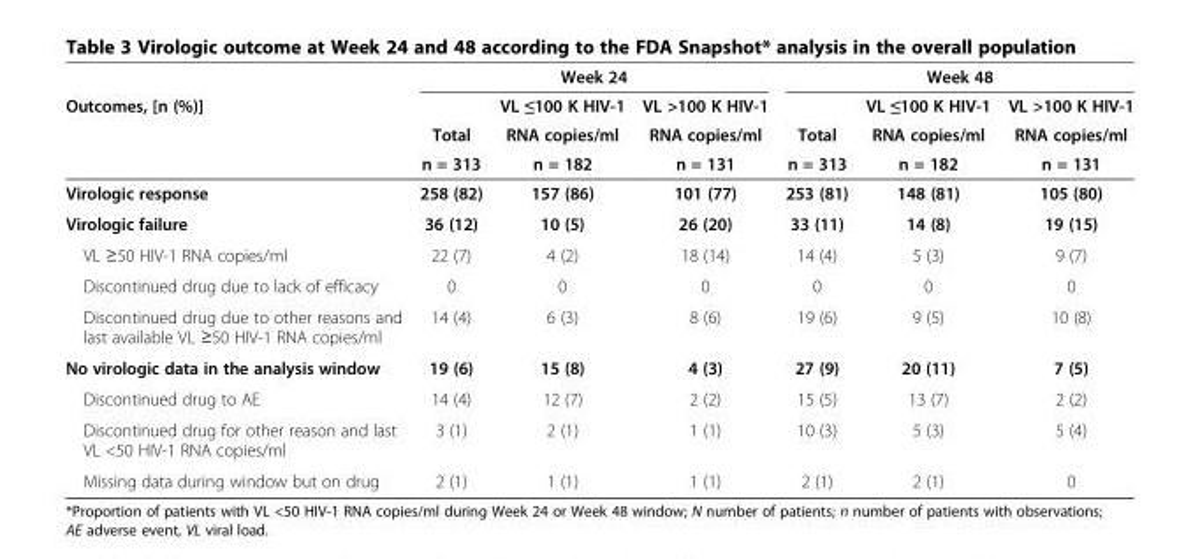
<table><thead><tr><td rowspan="4">Outcomes, [n (%)]</td><td colspan="3">Week 24</td><td colspan="3">Week 48</td></tr><tr><td rowspan="3">Total n = 313</td><td rowspan="3">VL ≤100 K HIV-1 RNA copies/ml n = 182</td><td rowspan="3">VL &gt;100 K HIV-1 RNA copies/ml n = 131</td><td rowspan="3">Total n = 313</td><td rowspan="3">VL ≤100 K HIV-1 RNA copies/ml n = 182</td><td rowspan="3">VL &gt;100 K HIV-1 RNA copies/ml n = 131</td></tr><tr></tr><tr></tr></thead><tbody><tr><td>Virologic response</td><td>258 (82)</td><td>157 (86)</td><td>101 (77)</td><td>253 (81)</td><td>148 (81)</td><td>105 (80)</td></tr><tr><td>Virologic failure</td><td>36 (12)</td><td>10 (5)</td><td>26 (20)</td><td>33 (11)</td><td>14 (8)</td><td>19 (15)</td></tr><tr><td>VL ≥50 HIV-1 RNA copies/ml</td><td>22 (7)</td><td>4 (2)</td><td>18 (14)</td><td>14 (4)</td><td>5 (3)</td><td>9 (7)</td></tr><tr><td>Discontinued drug due to lack of efficacy</td><td>0</td><td>0</td><td>0</td><td>0</td><td>0</td><td>0</td></tr><tr><td>Discontinued drug due to other reasons and last available VL ≥50 HIV-1 RNA copies/ml</td><td>14 (4)</td><td>6 (3)</td><td>8 (6)</td><td>19 (6)</td><td>9 (5)</td><td>10 (8)</td></tr><tr><td>No virologic data in the analysis window</td><td>19 (6)</td><td>15 (8)</td><td>4 (3)</td><td>27 (9)</td><td>20 (11)</td><td>7 (5)</td></tr><tr><td>Discontinued drug to AE</td><td>14 (4)</td><td>12 (7)</td><td>2 (2)</td><td>15 (5)</td><td>13 (7)</td><td>2 (2)</td></tr><tr><td>Discontinued drug for other reason and last VL &lt;50 HIV-1 RNA copies/ml</td><td>3 (1)</td><td>2 (1)</td><td>1 (1)</td><td>10 (3)</td><td>5 (3)</td><td>5 (4)</td></tr><tr><td>Missing data during window but on drug</td><td>2 (1)</td><td>1 (1)</td><td>1 (1)</td><td>2 (1)</td><td>2 (1)</td><td>0</td></tr></tbody></table>